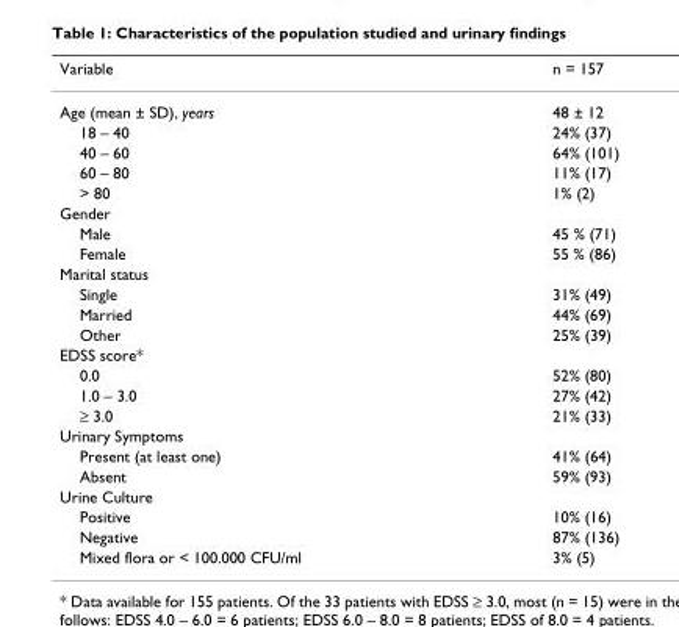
<table><thead><tr><td>Variable</td><td>n = 157</td></tr></thead><tbody><tr><td>Age (mean ± SD), years</td><td>48 ± 12</td></tr><tr><td>18 – 40</td><td>24% (37)</td></tr><tr><td>40 – 60</td><td>64% (101)</td></tr><tr><td>60 – 80</td><td>11% (17)</td></tr><tr><td>&gt; 80</td><td>1% (2)</td></tr><tr><td colspan="2">Gender</td></tr><tr><td>Male</td><td>45 % (71)</td></tr><tr><td>Female</td><td>55 % (86)</td></tr><tr><td colspan="2">Marital status</td></tr><tr><td>Single</td><td>31% (49)</td></tr><tr><td>Married</td><td>44% (69)</td></tr><tr><td>Other</td><td>25% (39)</td></tr><tr><td colspan="2">EDSS score*</td></tr><tr><td>0.0</td><td>52% (80)</td></tr><tr><td>1.0 – 3.0</td><td>27% (42)</td></tr><tr><td>≥ 3.0</td><td>21% (33)</td></tr><tr><td colspan="2">Urinary Symptoms</td></tr><tr><td>Present (at least one)</td><td>41% (64)</td></tr><tr><td>Absent</td><td>59% (93)</td></tr><tr><td colspan="2">Urine Culture</td></tr><tr><td>Positive</td><td>10% (16)</td></tr><tr><td>Negative</td><td>87% (136)</td></tr><tr><td>Mixed flora or &lt; 100.000 CFU/ml</td><td>3% (5)</td></tr></tbody></table>